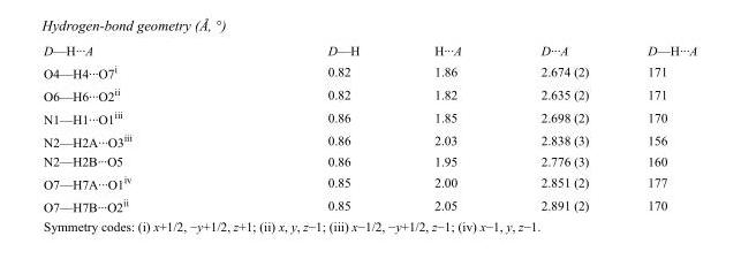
<table><tbody><tr><td>D—H···A</td><td>D—H</td><td>H···A</td><td>D···A</td><td>D—H···A</td></tr><tr><td>O4—H4···O7<sup>i</sup></td><td>0.82</td><td>1.86</td><td>2.674 (2)</td><td>171</td></tr><tr><td>O6—H6···O2<sup>ii</sup></td><td>0.82</td><td>1.82</td><td>2.635 (2)</td><td>171</td></tr><tr><td>N1—H1···O1<sup>iii</sup></td><td>0.86</td><td>1.85</td><td>2.698 (2)</td><td>170</td></tr><tr><td>N2—H2A···O3<sup>iii</sup></td><td>0.86</td><td>2.03</td><td>2.838 (3)</td><td>156</td></tr><tr><td>N2—H2B···O5</td><td>0.86</td><td>1.95</td><td>2.776 (3)</td><td>160</td></tr><tr><td>O7—H7A···O1<sup>iv</sup></td><td>0.85</td><td>2.00</td><td>2.851 (2)</td><td>177</td></tr><tr><td>O7—H7B···O2<sup>ii</sup></td><td>0.85</td><td>2.05</td><td>2.891 (2)</td><td>170</td></tr></tbody></table>